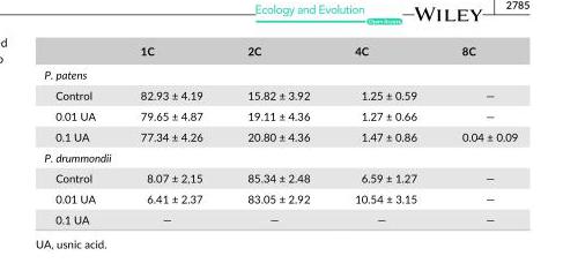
<table><thead><tr><td></td><td>1C</td><td>2C</td><td>4C</td><td>8C</td></tr></thead><tbody><tr><td colspan="5">P. patens</td></tr><tr><td>Control</td><td>82.93 ± 4.19</td><td>15.82 ± 3.92</td><td>1.25 ± 0.59</td><td>—</td></tr><tr><td>0.01 UA</td><td>79.65 ± 4.87</td><td>19.11 ± 4.36</td><td>1.27 ± 0.66</td><td>—</td></tr><tr><td>0.1 UA</td><td>77.34 ± 4.26</td><td>20.80 ± 4.36</td><td>1.47 ± 0.86</td><td>0.04 ± 0.09</td></tr><tr><td colspan="5">P. drummondii</td></tr><tr><td>Control</td><td>8.07 ± 2,15</td><td>85.34 ± 2.48</td><td>6.59 ± 1.27</td><td>—</td></tr><tr><td>0.01 UA</td><td>6.41 ± 2.37</td><td>83.05 ± 2.92</td><td>10.54 ± 3.15</td><td>—</td></tr><tr><td>0.1 UA</td><td>—</td><td>—</td><td>—</td><td>—</td></tr></tbody></table>